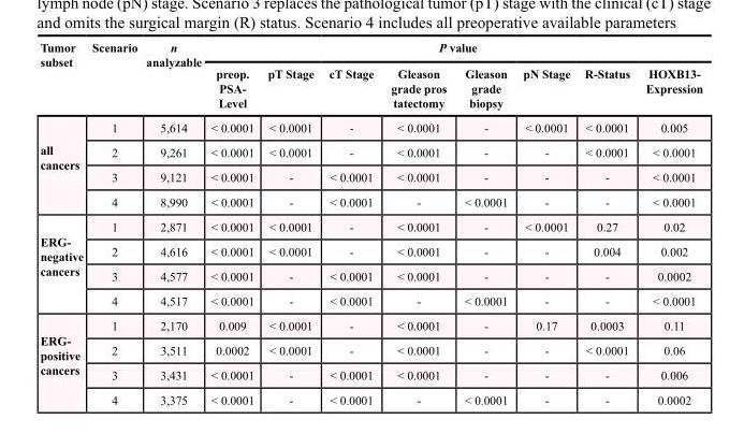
<table><thead><tr><td rowspan="2">Tumor subset</td><td rowspan="2">Scenario</td><td rowspan="2">n analyzable</td><td colspan="8">P value</td></tr><tr><td>preop. PSA- Level</td><td>pT Stage</td><td>cT Stage</td><td>Gleason grade pros tatectomy</td><td>Gleason grade biopsy</td><td>pN Stage</td><td>R-Status</td><td>HOXB13- Expression</td></tr></thead><tbody><tr><td rowspan="4">all cancers</td><td>1</td><td>5,614</td><td>&lt; 0.0001</td><td>&lt; 0.0001</td><td>-</td><td>&lt; 0.0001</td><td>-</td><td>&lt; 0.0001</td><td>&lt; 0.0001</td><td>0.005</td></tr><tr><td>2</td><td>9,261</td><td>&lt; 0.0001</td><td>&lt; 0.0001</td><td>-</td><td>&lt; 0.0001</td><td>-</td><td>-</td><td>&lt; 0.0001</td><td>&lt; 0.0001</td></tr><tr><td>3</td><td>9,121</td><td>&lt; 0.0001</td><td>-</td><td>&lt; 0.0001</td><td>&lt; 0.0001</td><td>-</td><td>-</td><td>-</td><td>&lt; 0.0001</td></tr><tr><td>4</td><td>8,990</td><td>&lt; 0.0001</td><td>-</td><td>&lt; 0.0001</td><td>-</td><td>&lt; 0.0001</td><td>-</td><td>-</td><td>&lt; 0.0001</td></tr><tr><td rowspan="4">ERG- negative cancers</td><td>1</td><td>2,871</td><td>&lt; 0.0001</td><td>&lt; 0.0001</td><td>-</td><td>&lt; 0.0001</td><td>-</td><td>&lt; 0.0001</td><td>0.27</td><td>0.02</td></tr><tr><td>2</td><td>4,616</td><td>&lt; 0.0001</td><td>&lt; 0.0001</td><td>-</td><td>&lt; 0.0001</td><td>-</td><td>-</td><td>0.004</td><td>0.002</td></tr><tr><td>3</td><td>4,577</td><td>&lt; 0.0001</td><td>-</td><td>&lt; 0.0001</td><td>&lt; 0.0001</td><td>-</td><td>-</td><td>-</td><td>0.0002</td></tr><tr><td>4</td><td>4,517</td><td>&lt; 0.0001</td><td>-</td><td>&lt; 0.0001</td><td>-</td><td>&lt; 0.0001</td><td>-</td><td>-</td><td>&lt; 0.0001</td></tr><tr><td rowspan="4">ERG- positive cancers</td><td>1</td><td>2,170</td><td>0.009</td><td>&lt; 0.0001</td><td>-</td><td>&lt; 0.0001</td><td>-</td><td>0.17</td><td>0.0003</td><td>0.11</td></tr><tr><td>2</td><td>3,511</td><td>0.0002</td><td>&lt; 0.0001</td><td>-</td><td>&lt; 0.0001</td><td>-</td><td>-</td><td>&lt; 0.0001</td><td>0.06</td></tr><tr><td>3</td><td>3,431</td><td>&lt; 0.0001</td><td>-</td><td>&lt; 0.0001</td><td>&lt; 0.0001</td><td>-</td><td>-</td><td>-</td><td>0.006</td></tr><tr><td>4</td><td>3,375</td><td>&lt; 0.0001</td><td>-</td><td>&lt; 0.0001</td><td>-</td><td>&lt; 0.0001</td><td>-</td><td>-</td><td>0.0002</td></tr></tbody></table>